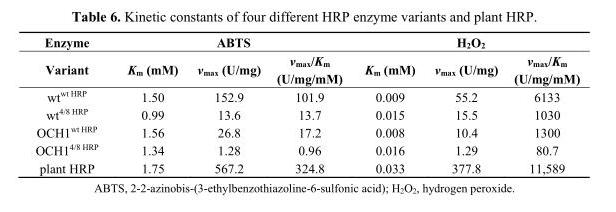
<table><thead><tr><td rowspan="2">Enzyme Variant</td><td colspan="3">ABTS</td><td colspan="3">H<sub>2</sub>O<sub>2</sub></td></tr><tr><td>K<sub>m</sub> (mM)</td><td>v<sub>max</sub> (U/mg)</td><td>v<sub>max</sub>/K<sub>m</sub> (U/mg/mM)</td><td>K<sub>m</sub> (mM)</td><td>v<sub>max</sub> (U/mg)</td><td>v<sub>max</sub>/K<sub>m</sub> (U/mg/mM)</td></tr></thead><tbody><tr><td>wt<sup>wt HRP</sup></td><td>1.50</td><td>152.9</td><td>101.9</td><td>0.009</td><td>55.2</td><td>6133</td></tr><tr><td>wt<sup>4/8 HRP</sup></td><td>0.99</td><td>13.6</td><td>13.7</td><td>0.015</td><td>15.5</td><td>1030</td></tr><tr><td>OCH1<sup>wt HRP</sup></td><td>1.56</td><td>26.8</td><td>17.2</td><td>0.008</td><td>10.4</td><td>1300</td></tr><tr><td>OCH1<sup>4/8 HRP</sup></td><td>1.34</td><td>1.28</td><td>0.96</td><td>0.016</td><td>1.29</td><td>80.7</td></tr><tr><td>plant HRP</td><td>1.75</td><td>567.2</td><td>324.8</td><td>0.033</td><td>377.8</td><td>11,589</td></tr></tbody></table>